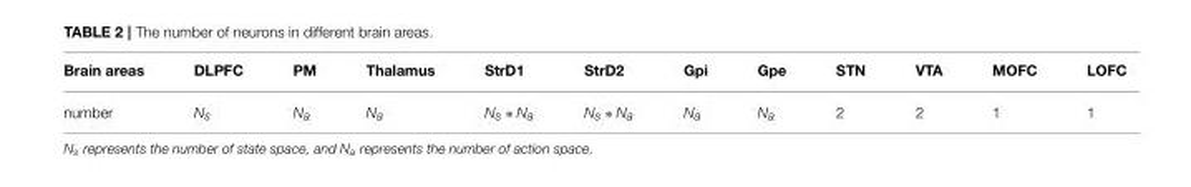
<table><thead><tr><td>Brain areas</td><td>DLPFC</td><td>PM</td><td>Thalamus</td><td>StrD1</td><td>StrD2</td><td>Gpi</td><td>Gpe</td><td>STN</td><td>VTA</td><td>MOFC</td><td>LOFC</td></tr></thead><tbody><tr><td>number</td><td>N<sub>s</sub></td><td>N<sub>a</sub></td><td>N<sub>a</sub></td><td>Ns ∗ Na</td><td>Ns ∗ Na</td><td>N<sub>a</sub></td><td>N<sub>a</sub></td><td>2</td><td>2</td><td>1</td><td>1</td></tr></tbody></table>